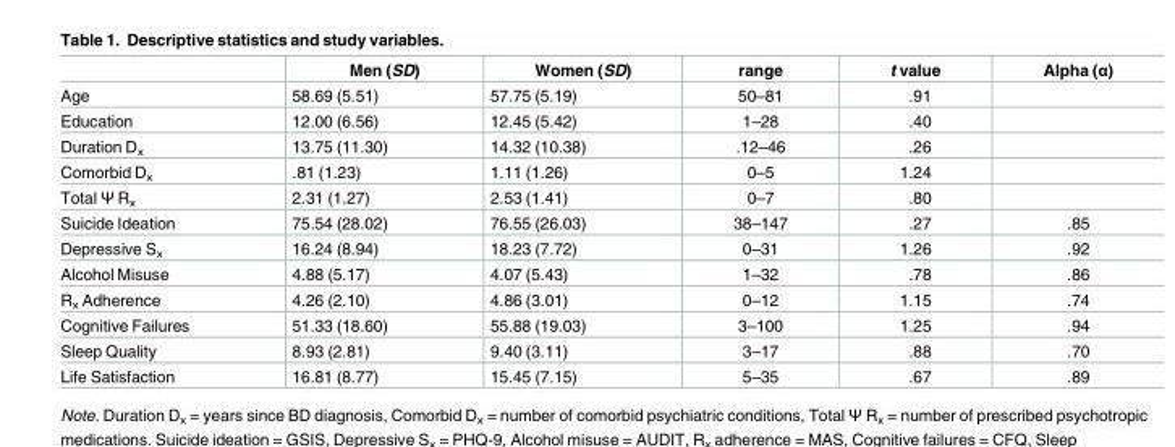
<table><thead><tr><td></td><td>Men (SD)</td><td>Women (SD)</td><td>range</td><td>t value</td><td>Alpha (α)</td></tr></thead><tbody><tr><td>Age</td><td>58.69 (5.51)</td><td>57.75 (5.19)</td><td>50–81</td><td>.91</td><td></td></tr><tr><td>Education</td><td>12.00 (6.56)</td><td>12.45 (5.42)</td><td>1–28</td><td>.40</td><td></td></tr><tr><td>Duration D<sub>x</sub></td><td>13.75 (11.30)</td><td>14.32 (10.38)</td><td>.12–46</td><td>.26</td><td></td></tr><tr><td>Comorbid D<sub>x</sub></td><td>.81 (1.23)</td><td>1.11 (1.26)</td><td>0–5</td><td>1.24</td><td></td></tr><tr><td>Total Ψ R<sub>x</sub></td><td>2.31 (1.27)</td><td>2.53 (1.41)</td><td>0–7</td><td>.80</td><td></td></tr><tr><td>Suicide Ideation</td><td>75.54 (28.02)</td><td>76.55 (26.03)</td><td>38–147</td><td>.27</td><td>.85</td></tr><tr><td>Depressive S<sub>x</sub></td><td>16.24 (8.94)</td><td>18.23 (7.72)</td><td>0–31</td><td>1.26</td><td>.92</td></tr><tr><td>Alcohol Misuse</td><td>4.88 (5.17)</td><td>4.07 (5.43)</td><td>1–32</td><td>.78</td><td>.86</td></tr><tr><td>R<sub>x</sub> Adherence</td><td>4.26 (2.10)</td><td>4.86 (3.01)</td><td>0–12</td><td>1.15</td><td>.74</td></tr><tr><td>Cognitive Failures</td><td>51.33 (18.60)</td><td>55.88 (19.03)</td><td>3–100</td><td>1.25</td><td>.94</td></tr><tr><td>Sleep Quality</td><td>8.93 (2.81)</td><td>9.40 (3.11)</td><td>3–17</td><td>.88</td><td>.70</td></tr><tr><td>Life Satisfaction</td><td>16.81 (8.77)</td><td>15.45 (7.15)</td><td>5–35</td><td>.67</td><td>.89</td></tr></tbody></table>